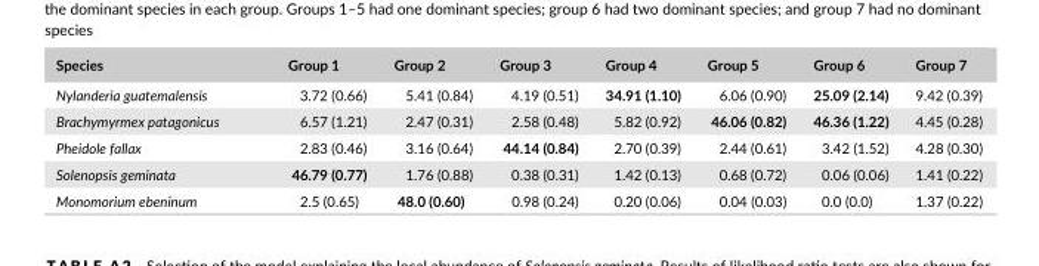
<table><thead><tr><td>Species</td><td>Group 1</td><td>Group 2</td><td>Group 3</td><td>Group 4</td><td>Group 5</td><td>Group 6</td><td>Group 7</td></tr></thead><tbody><tr><td>Nylanderia guatemalensis</td><td>3.72 (0.66)</td><td>5.41 (0.84)</td><td>4.19 (0.51)</td><td>34.91 (1.10)</td><td>6.06 (0.90)</td><td>25.09 (2.14)</td><td>9.42 (0.39)</td></tr><tr><td>Brachymyrmex patagonicus</td><td>6.57 (1.21)</td><td>2.47 (0.31)</td><td>2.58 (0.48)</td><td>5.82 (0.92)</td><td>46.06 (0.82)</td><td>46.36 (1.22)</td><td>4.45 (0.28)</td></tr><tr><td>Pheidole fallax</td><td>2.83 (0.46)</td><td>3.16 (0.64)</td><td>44.14 (0.84)</td><td>2.70 (0.39)</td><td>2.44 (0.61)</td><td>3.42 (1.52)</td><td>4.28 (0.30)</td></tr><tr><td>Solenopsis geminata</td><td>46.79 (0.77)</td><td>1.76 (0.88)</td><td>0.38 (0.31)</td><td>1.42 (0.13)</td><td>0.68 (0.72)</td><td>0.06 (0.06)</td><td>1.41 (0.22)</td></tr><tr><td>Monomorium ebeninum</td><td>2.5 (0.65)</td><td>48.0 (0.60)</td><td>0.98 (0.24)</td><td>0.20 (0.06)</td><td>0.04 (0.03)</td><td>0.0 (0.0)</td><td>1.37 (0.22)</td></tr></tbody></table>